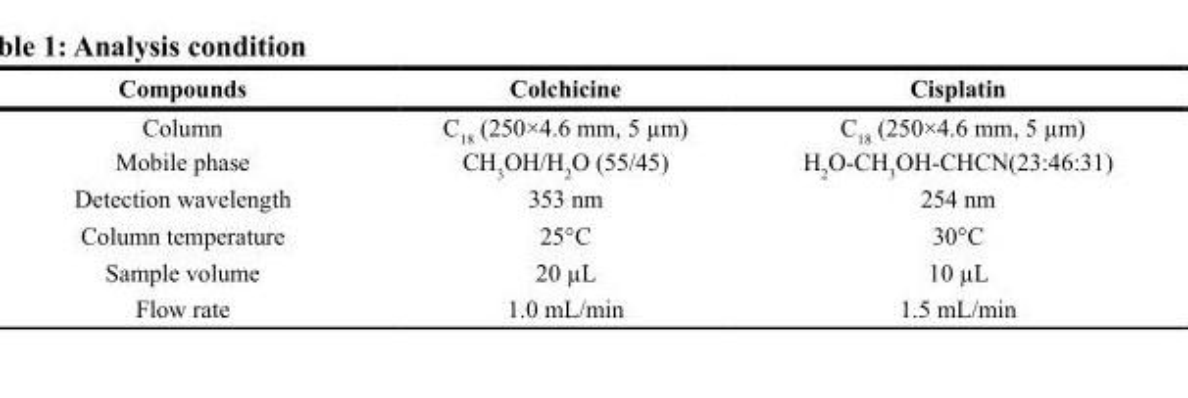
<table><thead><tr><td>Compounds</td><td>Colchicine</td><td>Cisplatin</td></tr></thead><tbody><tr><td>Column</td><td>C<sub>18</sub> (250×4.6 mm, 5 µm)</td><td>C<sub>18</sub> (250×4.6 mm, 5 µm)</td></tr><tr><td>Mobile phase</td><td>CH<sub>3</sub>OH/H<sub>2</sub>O (55/45)</td><td>H<sub>2</sub>O-CH<sub>3</sub>OH-CHCN(23:46:31)</td></tr><tr><td>Detection wavelength</td><td>353 nm</td><td>254 nm</td></tr><tr><td>Column temperature</td><td>25<sup>°</sup>C</td><td>30<sup>°</sup>C</td></tr><tr><td>Sample volume</td><td>20 µL</td><td>10 µL</td></tr><tr><td>Flow rate</td><td>1.0 mL/min</td><td>1.5 mL/min</td></tr></tbody></table>